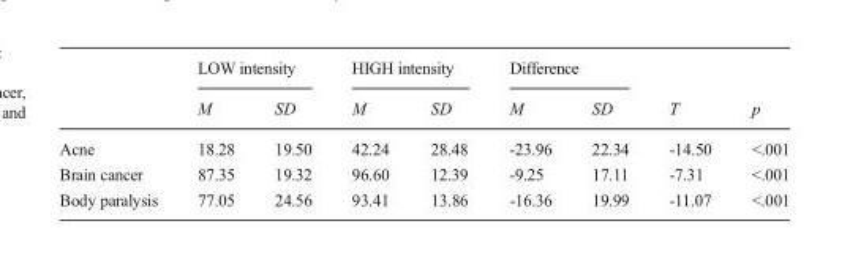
<table><thead><tr><td rowspan="2"></td><td colspan="2">LOW intensity</td><td colspan="2">HIGH intensity</td><td colspan="2">Difference</td><td rowspan="2">T</td><td rowspan="2">p</td></tr><tr><td>M</td><td>SD</td><td>M</td><td>SD</td><td>M</td><td>SD</td></tr></thead><tbody><tr><td>Acne</td><td>18.28</td><td>19.50</td><td>42.24</td><td>28.48</td><td>-23.96</td><td>22.34</td><td>-14.50</td><td>&lt;.001</td></tr><tr><td>Brain cancer</td><td>87.35</td><td>19.32</td><td>96.60</td><td>12.39</td><td>-9.25</td><td>17.11</td><td>-7.31</td><td>&lt;.001</td></tr><tr><td>Body paralysis</td><td>77.05</td><td>24.56</td><td>93.41</td><td>13.86</td><td>-16.36</td><td>19.99</td><td>-11.07</td><td>&lt;.001</td></tr></tbody></table>